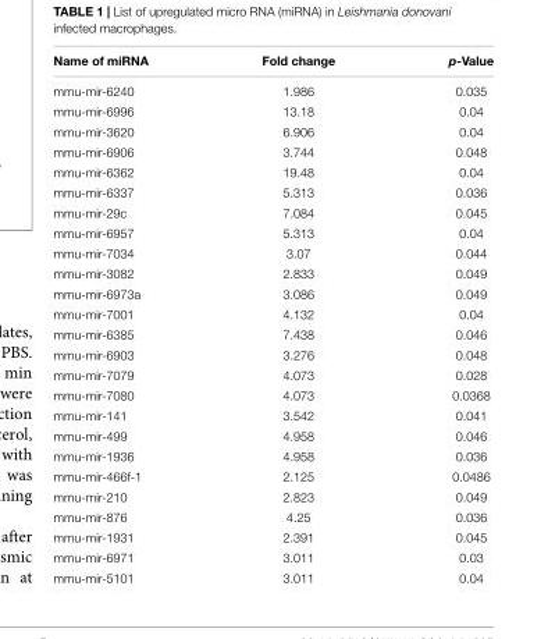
<table><thead><tr><td>Name of miRNA</td><td>Fold change</td><td>p-Value</td></tr></thead><tbody><tr><td>mmu-mir-6240</td><td>1.986</td><td>0.035</td></tr><tr><td>mmu-mir-6996</td><td>13.18</td><td>0.04</td></tr><tr><td>mmu-mir-3620</td><td>6.906</td><td>0.04</td></tr><tr><td>mmu-mir-6906</td><td>3.744</td><td>0.048</td></tr><tr><td>mmu-mir-6362</td><td>19.48</td><td>0.04</td></tr><tr><td>mmu-mir-6337</td><td>5.313</td><td>0.036</td></tr><tr><td>mmu-mir-29c</td><td>7.084</td><td>0.045</td></tr><tr><td>mmu-mir-6957</td><td>5.313</td><td>0.04</td></tr><tr><td>mmu-mir-7034</td><td>3.07</td><td>0.044</td></tr><tr><td>mmu-mir-3082</td><td>2.833</td><td>0.049</td></tr><tr><td>mmu-mir-6973a</td><td>3.086</td><td>0.049</td></tr><tr><td>mmu-mir-7001</td><td>4.132</td><td>0.04</td></tr><tr><td>mmu-mir-6385</td><td>7.438</td><td>0.046</td></tr><tr><td>mmu-mir-6903</td><td>3.276</td><td>0.048</td></tr><tr><td>mmu-mir-7079</td><td>4.073</td><td>0.028</td></tr><tr><td>mmu-mir-7080</td><td>4.073</td><td>0.0368</td></tr><tr><td>mmu-mir-141</td><td>3.542</td><td>0.041</td></tr><tr><td>mmu-mir-499</td><td>4.958</td><td>0.046</td></tr><tr><td>mmu-mir-1936</td><td>4.958</td><td>0.036</td></tr><tr><td>mmu-mir-466f-1</td><td>2.125</td><td>0.0486</td></tr><tr><td>mmu-mir-210</td><td>2.823</td><td>0.049</td></tr><tr><td>mmu-mir-876</td><td>4.25</td><td>0.036</td></tr><tr><td>mmu-mir-1931</td><td>2.391</td><td>0.045</td></tr><tr><td>mmu-mir-6971</td><td>3.011</td><td>0.03</td></tr><tr><td>mmu-mir-5101</td><td>3.011</td><td>0.04</td></tr></tbody></table>